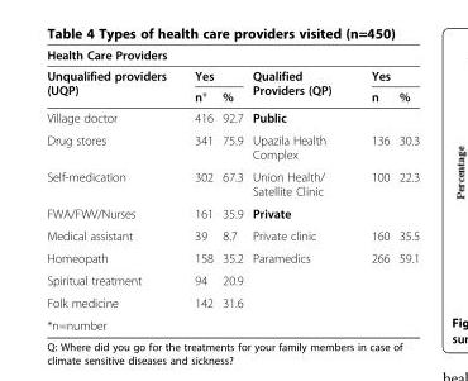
<table><thead><tr><td colspan="6">Health Care Providers</td></tr><tr><td rowspan="2">Unqualified providers (UQP)</td><td colspan="2">Yes</td><td rowspan="2">Qualified Providers (QP)</td><td colspan="2">Yes</td></tr><tr><td>n*</td><td>%</td><td>n</td><td>%</td></tr></thead><tbody><tr><td>Village doctor</td><td>416</td><td>92.7</td><td>Public</td><td></td><td></td></tr><tr><td>Drug stores</td><td>341</td><td>75.9</td><td>Upazila Health Complex</td><td>136</td><td>30.3</td></tr><tr><td>Self-medication</td><td>302</td><td>67.3</td><td>Union Health/ Satellite Clinic</td><td>100</td><td>22.3</td></tr><tr><td>FWA/FWV/Nurses</td><td>161</td><td>35.9</td><td>Private</td><td></td><td></td></tr><tr><td>Medical assistant</td><td>39</td><td>8.7</td><td>Private clinic</td><td>160</td><td>35.5</td></tr><tr><td>Homeopath</td><td>158</td><td>35.2</td><td>Paramedics</td><td>266</td><td>59.1</td></tr><tr><td>Spiritual treatment</td><td>94</td><td>20.9</td><td></td><td></td><td></td></tr><tr><td>Folk medicine</td><td>142</td><td>31.6</td><td></td><td></td><td></td></tr><tr><td>*n=number</td><td></td><td></td><td></td><td></td><td></td></tr></tbody></table>